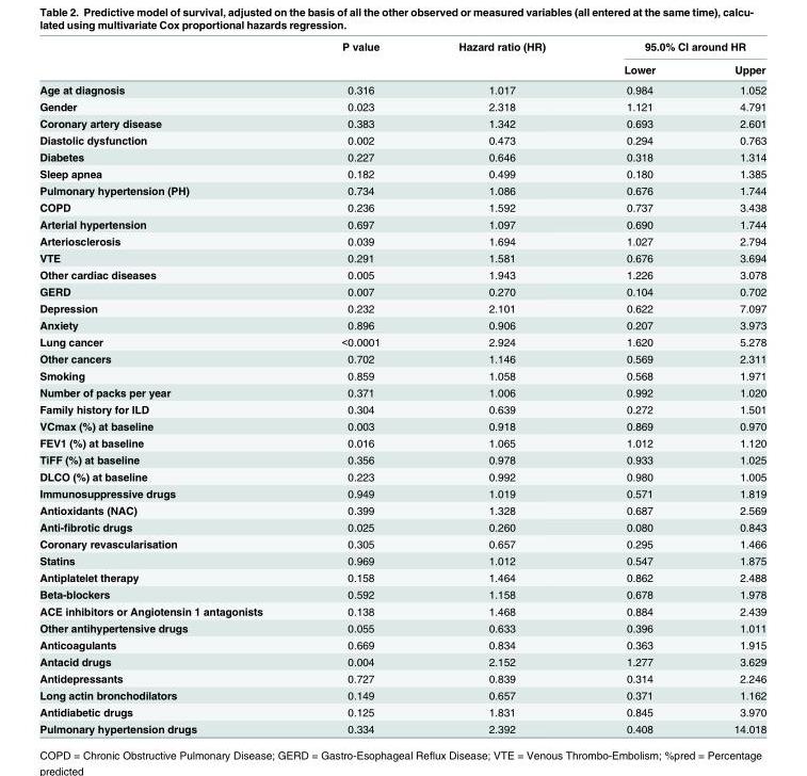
<table><thead><tr><td rowspan="2"></td><td rowspan="2">P value</td><td rowspan="2">Hazard ratio (HR)</td><td colspan="2">95.0% CI around HR</td></tr><tr><td>Lower</td><td>Upper</td></tr></thead><tbody><tr><td>Age at diagnosis</td><td>0.316</td><td>1.017</td><td>0.984</td><td>1.052</td></tr><tr><td>Gender</td><td>0.023</td><td>2.318</td><td>1.121</td><td>4.791</td></tr><tr><td>Coronary artery disease</td><td>0.383</td><td>1.342</td><td>0.693</td><td>2.601</td></tr><tr><td>Diastolic dysfunction</td><td>0.002</td><td>0.473</td><td>0.294</td><td>0.763</td></tr><tr><td>Diabetes</td><td>0.227</td><td>0.646</td><td>0.318</td><td>1.314</td></tr><tr><td>Sleep apnea</td><td>0.182</td><td>0.499</td><td>0.180</td><td>1.385</td></tr><tr><td>Pulmonary hypertension (PH)</td><td>0.734</td><td>1.086</td><td>0.676</td><td>1.744</td></tr><tr><td>COPD</td><td>0.236</td><td>1.592</td><td>0.737</td><td>3.438</td></tr><tr><td>Arterial hypertension</td><td>0.697</td><td>1.097</td><td>0.690</td><td>1.744</td></tr><tr><td>Arteriosclerosis</td><td>0.039</td><td>1.694</td><td>1.027</td><td>2.794</td></tr><tr><td>VTE</td><td>0.291</td><td>1.581</td><td>0.676</td><td>3.694</td></tr><tr><td>Other cardiac diseases</td><td>0.005</td><td>1.943</td><td>1.226</td><td>3.078</td></tr><tr><td>GERD</td><td>0.007</td><td>0.270</td><td>0.104</td><td>0.702</td></tr><tr><td>Depression</td><td>0.232</td><td>2.101</td><td>0.622</td><td>7.097</td></tr><tr><td>Anxiety</td><td>0.896</td><td>0.906</td><td>0.207</td><td>3.973</td></tr><tr><td>Lung cancer</td><td>&lt;0.0001</td><td>2.924</td><td>1.620</td><td>5.278</td></tr><tr><td>Other cancers</td><td>0.702</td><td>1.146</td><td>0.569</td><td>2.311</td></tr><tr><td>Smoking</td><td>0.859</td><td>1.058</td><td>0.568</td><td>1.971</td></tr><tr><td>Number of packs per year</td><td>0.371</td><td>1.006</td><td>0.992</td><td>1.020</td></tr><tr><td>Family history for ILD</td><td>0.304</td><td>0.639</td><td>0.272</td><td>1.501</td></tr><tr><td>VCmax (%) at baseline</td><td>0.003</td><td>0.918</td><td>0.869</td><td>0.970</td></tr><tr><td>FEV1 (%) at baseline</td><td>0.016</td><td>1.065</td><td>1.012</td><td>1.120</td></tr><tr><td>TiFF (%) at baseline</td><td>0.356</td><td>0.978</td><td>0.933</td><td>1.025</td></tr><tr><td>DLCO (%) at baseline</td><td>0.223</td><td>0.992</td><td>0.980</td><td>1.005</td></tr><tr><td>Immunosuppressive drugs</td><td>0.949</td><td>1.019</td><td>0.571</td><td>1.819</td></tr><tr><td>Antioxidants (NAC)</td><td>0.399</td><td>1.328</td><td>0.687</td><td>2.569</td></tr><tr><td>Anti-fibrotic drugs</td><td>0.025</td><td>0.260</td><td>0.080</td><td>0.843</td></tr><tr><td>Coronary revascularisation</td><td>0.305</td><td>0.657</td><td>0.295</td><td>1.466</td></tr><tr><td>Statins</td><td>0.969</td><td>1.012</td><td>0.547</td><td>1.875</td></tr><tr><td>Antiplatelet therapy</td><td>0.158</td><td>1.464</td><td>0.862</td><td>2.488</td></tr><tr><td>Beta-blockers</td><td>0.592</td><td>1.158</td><td>0.678</td><td>1.978</td></tr><tr><td>ACE inhibitors or Angiotensin 1 antagonists</td><td>0.138</td><td>1.468</td><td>0.884</td><td>2.439</td></tr><tr><td>Other antihypertensive drugs</td><td>0.055</td><td>0.633</td><td>0.396</td><td>1.011</td></tr><tr><td>Anticoagulants</td><td>0.669</td><td>0.834</td><td>0.363</td><td>1.915</td></tr><tr><td>Antacid drugs</td><td>0.004</td><td>2.152</td><td>1.277</td><td>3.629</td></tr><tr><td>Antidepressants</td><td>0.727</td><td>0.839</td><td>0.314</td><td>2.246</td></tr><tr><td>Long actin bronchodilators</td><td>0.149</td><td>0.657</td><td>0.371</td><td>1.162</td></tr><tr><td>Antidiabetic drugs</td><td>0.125</td><td>1.831</td><td>0.845</td><td>3.970</td></tr><tr><td>Pulmonary hypertension drugs</td><td>0.334</td><td>2.392</td><td>0.408</td><td>14.018</td></tr></tbody></table>